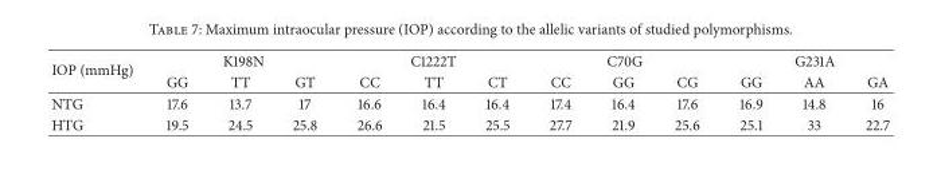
<table><thead><tr><td rowspan="2">IOP (mmHg)</td><td colspan="3">K198N</td><td colspan="3">C1222T</td><td colspan="3">C70G</td><td colspan="3">G231A</td></tr><tr><td>GG</td><td>TT</td><td>GT</td><td>CC</td><td>TT</td><td>CT</td><td>CC</td><td>GG</td><td>CG</td><td>GG</td><td>AA</td><td>GA</td></tr></thead><tbody><tr><td>NTG</td><td>17.6</td><td>13.7</td><td>17</td><td>16.6</td><td>16.4</td><td>16.4</td><td>17.4</td><td>16.4</td><td>17.6</td><td>16.9</td><td>14.8</td><td>16</td></tr><tr><td>HTG</td><td>19.5</td><td>24.5</td><td>25.8</td><td>26.6</td><td>21.5</td><td>25.5</td><td>27.7</td><td>21.9</td><td>25.6</td><td>25.1</td><td>33</td><td>22.7</td></tr></tbody></table>